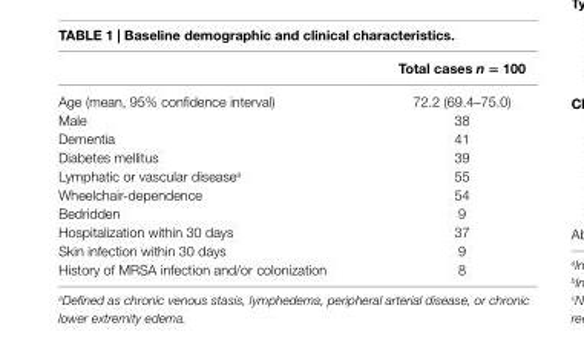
<table><thead><tr><td></td><td>Total cases n = 100</td></tr></thead><tbody><tr><td>Age (mean, 95% confidence interval)</td><td>72.2 (69.4–75.0)</td></tr><tr><td>Male</td><td>38</td></tr><tr><td>Dementia</td><td>41</td></tr><tr><td>Diabetes mellitus</td><td>39</td></tr><tr><td>Lymphatic or vascular disease<sup>a</sup></td><td>55</td></tr><tr><td>Wheelchair-dependence</td><td>54</td></tr><tr><td>Bedridden</td><td>9</td></tr><tr><td>Hospitalization within 30 days</td><td>37</td></tr><tr><td>Skin infection within 30 days</td><td>9</td></tr><tr><td>History of MRSA infection and/or colonization</td><td>8</td></tr></tbody></table>